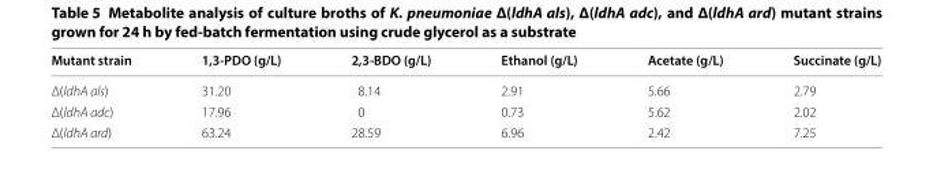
<table><thead><tr><td>Mutant strain</td><td>1,3‑PDO (g/L)</td><td>2,3‑BDO (g/L)</td><td>Ethanol (g/L)</td><td>Acetate (g/L)</td><td>Succinate (g/L)</td></tr></thead><tbody><tr><td>Δ(ldhA als)</td><td>31.20</td><td>8.14</td><td>2.91</td><td>5.66</td><td>2.79</td></tr><tr><td>Δ(ldhA adc)</td><td>17.96</td><td>0</td><td>0.73</td><td>5.62</td><td>2.02</td></tr><tr><td>Δ(ldhA ard)</td><td>63.24</td><td>28.59</td><td>6.96</td><td>2.42</td><td>7.25</td></tr></tbody></table>